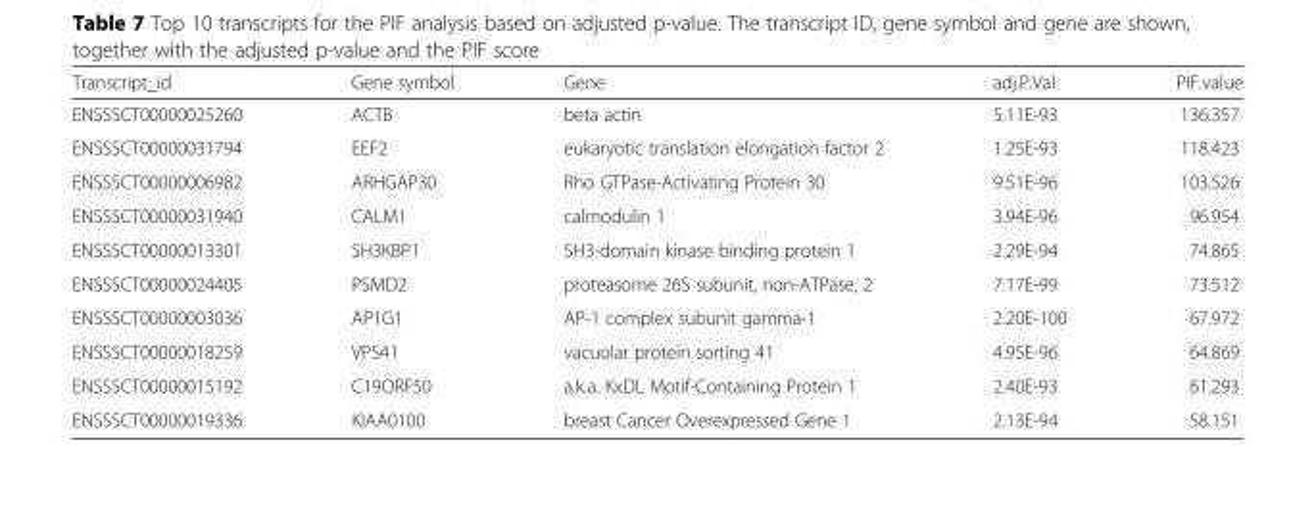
<table><thead><tr><td>Transcript_id</td><td>Gene symbol</td><td>Gene</td><td>adj.P.Val</td><td>PIF.value</td></tr></thead><tbody><tr><td>ENSSSCT00000025260</td><td>ACTB</td><td>beta actin</td><td>5.11E-93</td><td>136.357</td></tr><tr><td>ENSSSCT00000031794</td><td>EEF2</td><td>eukaryotic translation elongation factor 2</td><td>1.25E-93</td><td>118.423</td></tr><tr><td>ENSSSCT00000006982</td><td>ARHGAP30</td><td>Rho GTPase-Activating Protein 30</td><td>9.51E-96</td><td>103.526</td></tr><tr><td>ENSSSCT00000031940</td><td>CALM1</td><td>calmodulin 1</td><td>3.94E-96</td><td>96.954</td></tr><tr><td>ENSSSCT00000013301</td><td>SH3KBP1</td><td>SH3-domain kinase binding protein 1</td><td>2.29E-94</td><td>74.865</td></tr><tr><td>ENSSSCT00000024405</td><td>PSMD2</td><td>proteasome 26S subunit, non-ATPase, 2</td><td>7.17E-99</td><td>73.512</td></tr><tr><td>ENSSSCT00000003036</td><td>AP1G1</td><td>AP-1 complex subunit gamma-1</td><td>2.20E-100</td><td>67.972</td></tr><tr><td>ENSSSCT00000018259</td><td>VPS41</td><td>vacuolar protein sorting 41</td><td>4.95E-96</td><td>64.869</td></tr><tr><td>ENSSSCT00000015192</td><td>C19ORF50</td><td>a.k.a. KxDL Motif-Containing Protein 1</td><td>2.40E-93</td><td>61.293</td></tr><tr><td>ENSSSCT00000019336</td><td>KIAA0100</td><td>breast Cancer Overexpressed Gene 1</td><td>2.13E-94</td><td>58.151</td></tr></tbody></table>